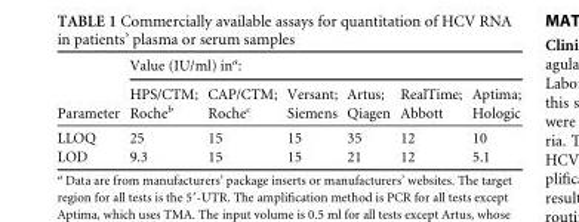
<table><thead><tr><td rowspan="2">Parameter</td><td colspan="6">Value (IU/ml) in<sup>a</sup>:</td></tr><tr><td>HPS/CTM; Roche<sup>b</sup></td><td>CAP/CTM; Roche<sup>c</sup></td><td>Versant; Siemens</td><td>Artus; Qiagen</td><td>RealTime; Abbott</td><td>Aptima; Hologic</td></tr></thead><tbody><tr><td>LLOQ</td><td>25</td><td>15</td><td>15</td><td>35</td><td>12</td><td>10</td></tr><tr><td>LOD</td><td>9.3</td><td>15</td><td>15</td><td>21</td><td>12</td><td>5.1</td></tr></tbody></table>